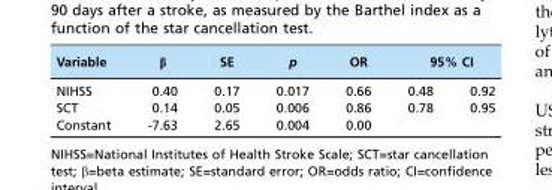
<table><thead><tr><td rowspan="2">Variable NIHSS</td><td rowspan="2">β 0.40</td><td rowspan="2">SE 0.17</td><td rowspan="2">p 0.017</td><td rowspan="2">OR 0.66</td><td colspan="2">95% CI</td></tr><tr><td>0.48</td><td>0.92</td></tr></thead><tbody><tr><td>SCT</td><td>0.14</td><td>0.05</td><td>0.006</td><td>0.86</td><td>0.78</td><td>0.95</td></tr><tr><td>Constant</td><td>-7.63</td><td>2.65</td><td>0.004</td><td>0.00</td><td></td><td></td></tr></tbody></table>